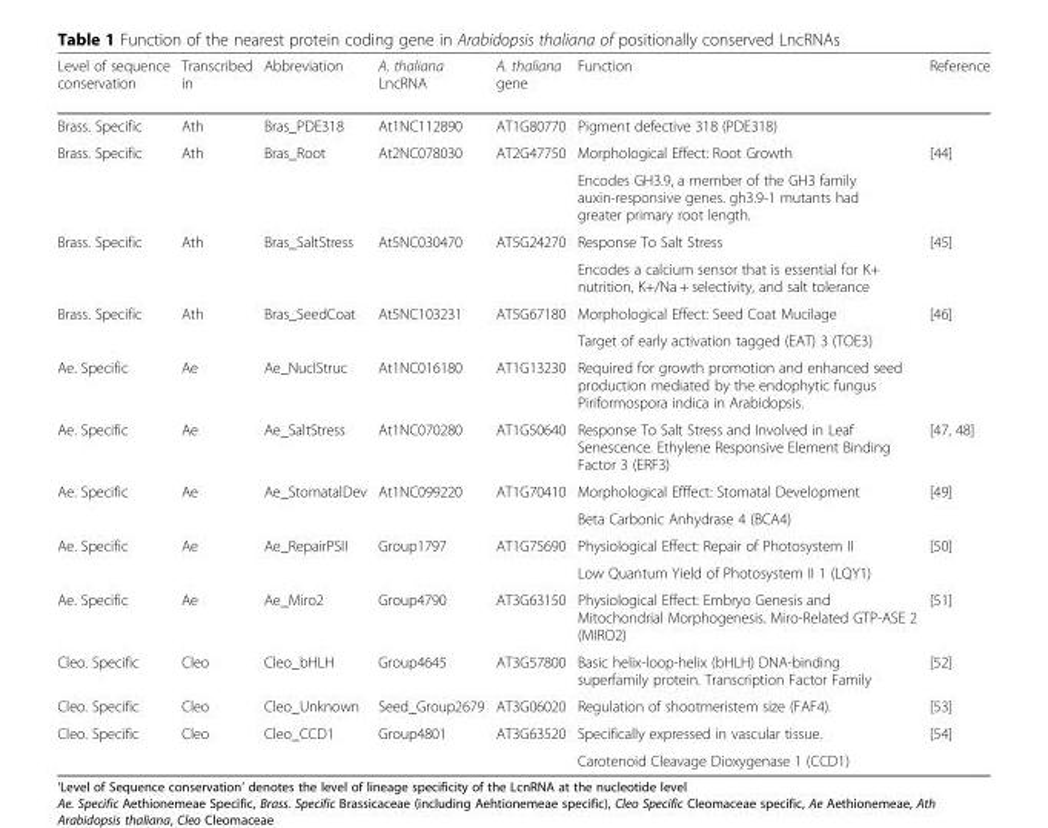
<table><thead><tr><td>Level of sequence conservation</td><td>Transcribed in</td><td>Abbreviation</td><td>A. thaliana LncRNA</td><td>A. thaliana gene</td><td>Function</td><td>Reference</td></tr></thead><tbody><tr><td>Brass. Specific</td><td>Ath</td><td>Bras_PDE318</td><td>At1NC112890</td><td>AT1G80770</td><td>Pigment defective 318 (PDE318)</td><td></td></tr><tr><td rowspan="2">Brass. Specific</td><td rowspan="2">Ath</td><td rowspan="2">Bras_Root</td><td rowspan="2">At2NC078030</td><td rowspan="2">AT2G47750</td><td>Morphological Effect: Root Growth</td><td rowspan="2">[44]</td></tr><tr><td>Encodes GH3.9, a member of the GH3 family auxin-responsive genes. gh3.9-1 mutants had greater primary root length.</td></tr><tr><td rowspan="2">Brass. Specific</td><td rowspan="2">Ath</td><td rowspan="2">Bras_SaltStress</td><td rowspan="2">At5NC030470</td><td rowspan="2">AT5G24270</td><td>Response To Salt Stress</td><td rowspan="2">[45]</td></tr><tr><td>Encodes a calcium sensor that is essential for K+ nutrition, K+/Na + selectivity, and salt tolerance</td></tr><tr><td rowspan="2">Brass. Specific</td><td rowspan="2">Ath</td><td rowspan="2">Bras_SeedCoat</td><td rowspan="2">At5NC103231</td><td rowspan="2">AT5G67180</td><td>Morphological Effect: Seed Coat Mucilage</td><td rowspan="2">[46]</td></tr><tr><td>Target of early activation tagged (EAT) 3 (TOE3)</td></tr><tr><td>Ae. Specific</td><td>Ae</td><td>Ae_NuclStruc</td><td>At1NC016180</td><td>AT1G13230</td><td>Required for growth promotion and enhanced seed production mediated by the endophytic fungus Piriformospora indica in Arabidopsis.</td><td></td></tr><tr><td>Ae. Specific</td><td>Ae</td><td>Ae_SaltStress</td><td>At1NC070280</td><td>AT1G50640</td><td>Response To Salt Stress and Involved in Leaf Senescence. Ethylene Responsive Element Binding Factor 3 (ERF3)</td><td>[47, 48]</td></tr><tr><td rowspan="2">Ae. Specific</td><td rowspan="2">Ae</td><td rowspan="2">Ae_StomatalDev</td><td rowspan="2">At1NC099220</td><td rowspan="2">AT1G70410</td><td>Morphological Efffect: Stomatal Development</td><td rowspan="2">[49]</td></tr><tr><td>Beta Carbonic Anhydrase 4 (BCA4)</td></tr><tr><td rowspan="2">Ae. Specific</td><td rowspan="2">Ae</td><td rowspan="2">Ae_RepairPSII</td><td rowspan="2">Group1797</td><td rowspan="2">AT1G75690</td><td>Physiological Effect: Repair of Photosystem II</td><td rowspan="2">[50]</td></tr><tr><td>Low Quantum Yield of Photosystem II 1 (LQY1)</td></tr><tr><td>Ae. Specific</td><td>Ae</td><td>Ae_Miro2</td><td>Group4790</td><td>AT3G63150</td><td>Physiological Effect: Embryo Genesis and Mitochondrial Morphogenesis. Miro-Related GTP-ASE 2 (MIRO2)</td><td>[51]</td></tr><tr><td>Cleo. Specific</td><td>Cleo</td><td>Cleo_bHLH</td><td>Group4645</td><td>AT3G57800</td><td>Basic helix-loop-helix (bHLH) DNA-binding superfamily protein. Transcription Factor Family</td><td>[52]</td></tr><tr><td>Cleo. Specific</td><td>Cleo</td><td>Cleo_Unknown</td><td>Seed_Group2679</td><td>AT3G06020</td><td>Regulation of shootmeristem size (FAF4).</td><td>[53]</td></tr><tr><td rowspan="2">Cleo. Specific</td><td rowspan="2">Cleo</td><td rowspan="2">Cleo_CCD1</td><td rowspan="2">Group4801</td><td rowspan="2">AT3G63520</td><td>Specifically expressed in vascular tissue.</td><td rowspan="2">[54]</td></tr><tr><td>Carotenoid Cleavage Dioxygenase 1 (CCD1)</td></tr></tbody></table>